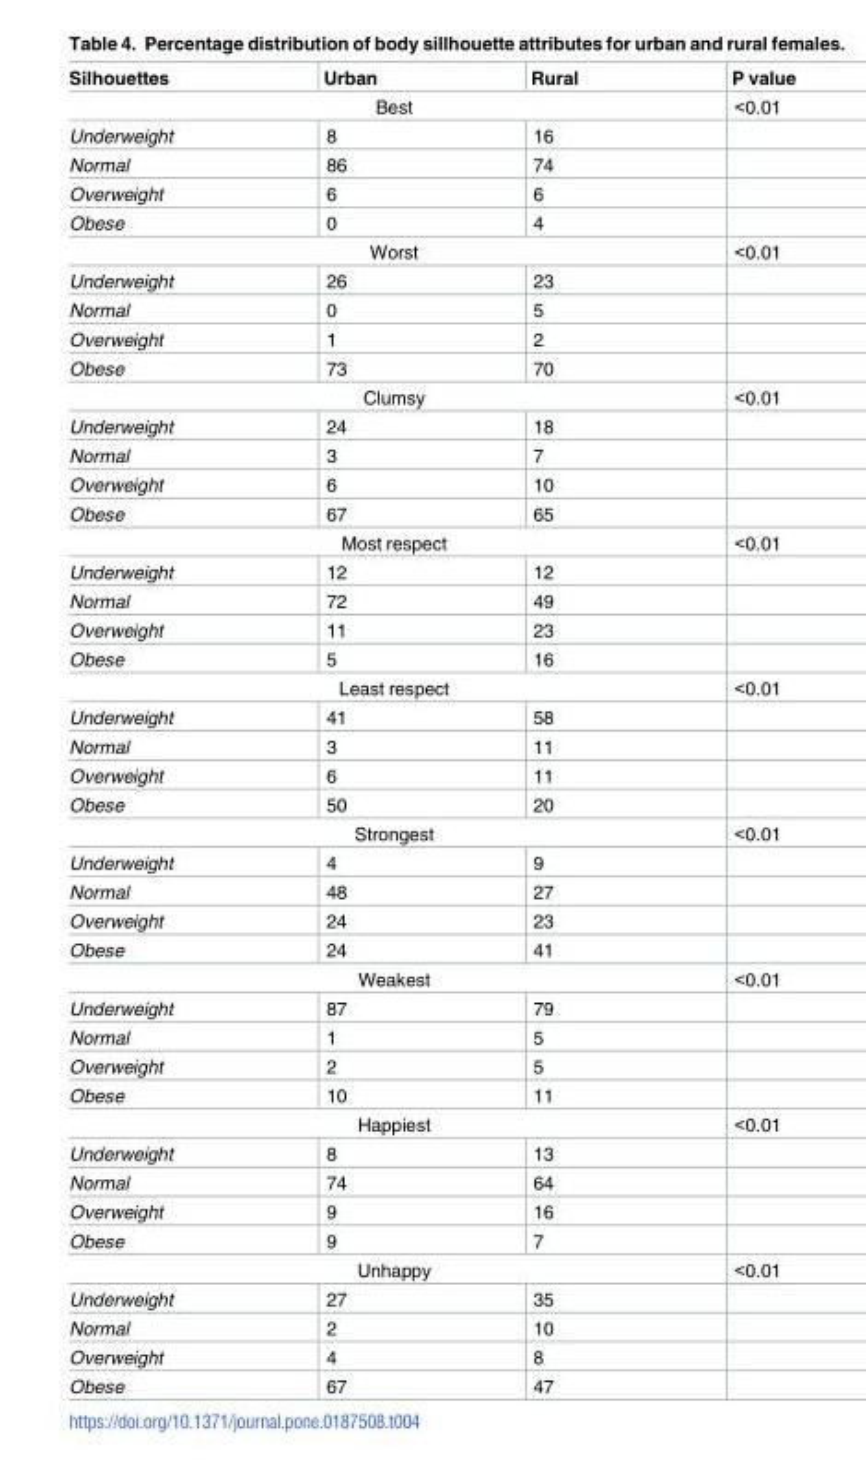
<table><thead><tr><td>Silhouettes</td><td>Urban</td><td>Rural</td><td>P value</td></tr></thead><tbody><tr><td colspan="3">Best</td><td>&lt;0.01</td></tr><tr><td>Underweight</td><td>8</td><td>16</td><td></td></tr><tr><td>Normal</td><td>86</td><td>74</td><td></td></tr><tr><td>Overweight</td><td>6</td><td>6</td><td></td></tr><tr><td>Obese</td><td>0</td><td>4</td><td></td></tr><tr><td colspan="3">Worst</td><td>&lt;0.01</td></tr><tr><td>Underweight</td><td>26</td><td>23</td><td></td></tr><tr><td>Normal</td><td>0</td><td>5</td><td></td></tr><tr><td>Overweight</td><td>1</td><td>2</td><td></td></tr><tr><td>Obese</td><td>73</td><td>70</td><td></td></tr><tr><td colspan="3">Clumsy</td><td>&lt;0.01</td></tr><tr><td>Underweight</td><td>24</td><td>18</td><td></td></tr><tr><td>Normal</td><td>3</td><td>7</td><td></td></tr><tr><td>Overweight</td><td>6</td><td>10</td><td></td></tr><tr><td>Obese</td><td>67</td><td>65</td><td></td></tr><tr><td colspan="3">Most respect</td><td>&lt;0.01</td></tr><tr><td>Underweight</td><td>12</td><td>12</td><td></td></tr><tr><td>Normal</td><td>72</td><td>49</td><td></td></tr><tr><td>Overweight</td><td>11</td><td>23</td><td></td></tr><tr><td>Obese</td><td>5</td><td>16</td><td></td></tr><tr><td colspan="3">Least respect</td><td>&lt;0.01</td></tr><tr><td>Underweight</td><td>41</td><td>58</td><td></td></tr><tr><td>Normal</td><td>3</td><td>11</td><td></td></tr><tr><td>Overweight</td><td>6</td><td>11</td><td></td></tr><tr><td>Obese</td><td>50</td><td>20</td><td></td></tr><tr><td colspan="3">Strongest</td><td>&lt;0.01</td></tr><tr><td>Underweight</td><td>4</td><td>9</td><td></td></tr><tr><td>Normal</td><td>48</td><td>27</td><td></td></tr><tr><td>Overweight</td><td>24</td><td>23</td><td></td></tr><tr><td>Obese</td><td>24</td><td>41</td><td></td></tr><tr><td colspan="3">Weakest</td><td>&lt;0.01</td></tr><tr><td>Underweight</td><td>87</td><td>79</td><td></td></tr><tr><td>Normal</td><td>1</td><td>5</td><td></td></tr><tr><td>Overweight</td><td>2</td><td>5</td><td></td></tr><tr><td>Obese</td><td>10</td><td>11</td><td></td></tr><tr><td colspan="3">Happiest</td><td>&lt;0.01</td></tr><tr><td>Underweight</td><td>8</td><td>13</td><td></td></tr><tr><td>Normal</td><td>74</td><td>64</td><td></td></tr><tr><td>Overweight</td><td>9</td><td>16</td><td></td></tr><tr><td>Obese</td><td>9</td><td>7</td><td></td></tr><tr><td colspan="3">Unhappy</td><td>&lt;0.01</td></tr><tr><td>Underweight</td><td>27</td><td>35</td><td></td></tr><tr><td>Normal</td><td>2</td><td>10</td><td></td></tr><tr><td>Overweight</td><td>4</td><td>8</td><td></td></tr><tr><td>Obese</td><td>67</td><td>47</td><td></td></tr></tbody></table>